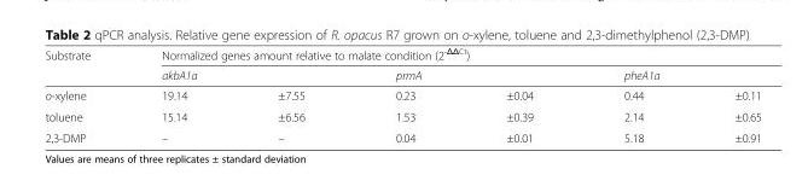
<table><thead><tr><td rowspan="3">Substrate o-xylene</td><td colspan="6">Normalized genes amount relative to malate condition (2<sup>-ΔΔCt</sup>)</td></tr><tr><td colspan="2">akbA1a</td><td colspan="2">prmA</td><td colspan="2">pheA1a</td></tr><tr><td>19.14</td><td>±7.55</td><td>0.23</td><td>±0.04</td><td>0.44</td><td>±0.11</td></tr></thead><tbody><tr><td>toluene</td><td>15.14</td><td>±6.56</td><td>1.53</td><td>±0.39</td><td>2.14</td><td>±0.65</td></tr><tr><td>2,3-DMP</td><td>–</td><td>–</td><td>0.04</td><td>±0.01</td><td>5.18</td><td>±0.91</td></tr></tbody></table>